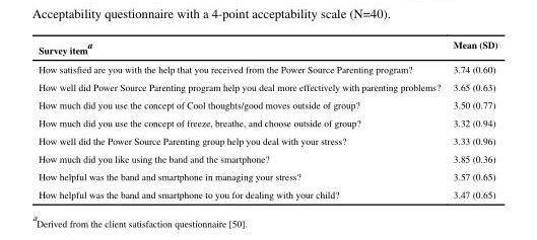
<table><thead><tr><td>Survey item<sup>a</sup></td><td>Mean (SD)</td></tr></thead><tbody><tr><td>How satisfied are you with the help that you received from the Power Source Parenting program?</td><td>3.74 (0.60)</td></tr><tr><td>How well did Power Source Parenting program help you deal more effectively with parenting problems?</td><td>3.65 (0.63)</td></tr><tr><td>How much did you use the concept of Cool thoughts/good moves outside of group?</td><td>3.50 (0.77)</td></tr><tr><td>How much did you use the concept of freeze, breathe, and choose outside of group?</td><td>3.32 (0.94)</td></tr><tr><td>How well did the Power Source Parenting group help you deal with your stress?</td><td>3.33 (0.96)</td></tr><tr><td>How much did you like using the band and the smartphone?</td><td>3.85 (0.36)</td></tr><tr><td>How helpful was the band and smartphone in managing your stress?</td><td>3.57 (0.65)</td></tr><tr><td>How helpful was the band and smartphone to you for dealing with your child?</td><td>3.47 (0.65)</td></tr></tbody></table>